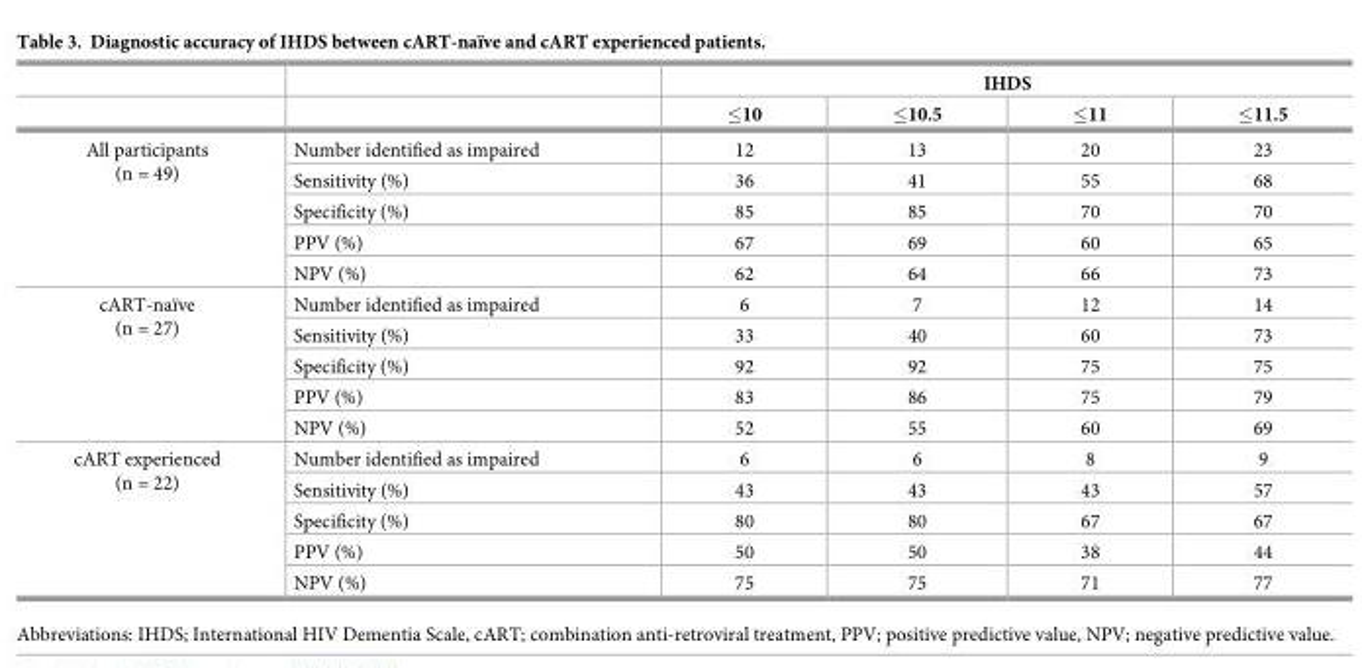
<table><thead><tr><td rowspan="2"></td><td rowspan="2"></td><td colspan="4">IHDS</td></tr><tr><td>≤10</td><td>≤10.5</td><td>≤11</td><td>≤11.5</td></tr></thead><tbody><tr><td rowspan="5">All participants (n = 49)</td><td>Number identified as impaired</td><td>12</td><td>13</td><td>20</td><td>23</td></tr><tr><td>Sensitivity (%)</td><td>36</td><td>41</td><td>55</td><td>68</td></tr><tr><td>Specificity (%)</td><td>85</td><td>85</td><td>70</td><td>70</td></tr><tr><td>PPV (%)</td><td>67</td><td>69</td><td>60</td><td>65</td></tr><tr><td>NPV (%)</td><td>62</td><td>64</td><td>66</td><td>73</td></tr><tr><td rowspan="5">cART-naïve (n = 27)</td><td>Number identified as impaired</td><td>6</td><td>7</td><td>12</td><td>14</td></tr><tr><td>Sensitivity (%)</td><td>33</td><td>40</td><td>60</td><td>73</td></tr><tr><td>Specificity (%)</td><td>92</td><td>92</td><td>75</td><td>75</td></tr><tr><td>PPV (%)</td><td>83</td><td>86</td><td>75</td><td>79</td></tr><tr><td>NPV (%)</td><td>52</td><td>55</td><td>60</td><td>69</td></tr><tr><td rowspan="5">cART experienced (n = 22)</td><td>Number identified as impaired</td><td>6</td><td>6</td><td>8</td><td>9</td></tr><tr><td>Sensitivity (%)</td><td>43</td><td>43</td><td>43</td><td>57</td></tr><tr><td>Specificity (%)</td><td>80</td><td>80</td><td>67</td><td>67</td></tr><tr><td>PPV (%)</td><td>50</td><td>50</td><td>38</td><td>44</td></tr><tr><td>NPV (%)</td><td>75</td><td>75</td><td>71</td><td>77</td></tr></tbody></table>